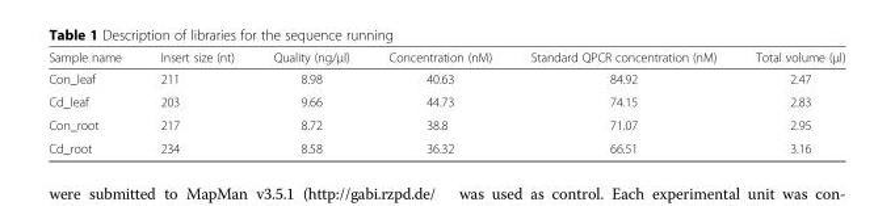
<table><thead><tr><td>Sample name</td><td>Insert size (nt)</td><td>Quality (ng/μl)</td><td>Concentration (nM)</td><td>Standard QPCR concentration (nM)</td><td>Total volume (μl)</td></tr></thead><tbody><tr><td>Con_leaf</td><td>211</td><td>8.98</td><td>40.63</td><td>84.92</td><td>2.47</td></tr><tr><td>Cd_leaf</td><td>203</td><td>9.66</td><td>44.73</td><td>74.15</td><td>2.83</td></tr><tr><td>Con_root</td><td>217</td><td>8.72</td><td>38.8</td><td>71.07</td><td>2.95</td></tr><tr><td>Cd_root</td><td>234</td><td>8.58</td><td>36.32</td><td>66.51</td><td>3.16</td></tr></tbody></table>